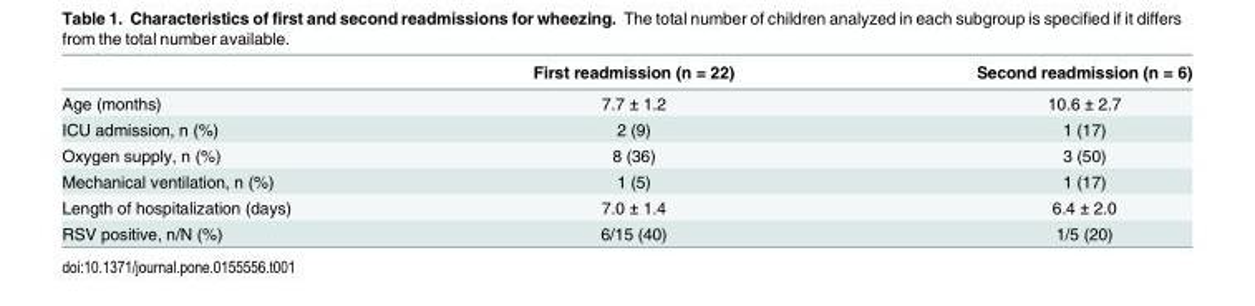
<table><thead><tr><td></td><td>First readmission (n = 22)</td><td>Second readmission (n = 6)</td></tr></thead><tbody><tr><td>Age (months)</td><td>7.7 ± 1.2</td><td>10.6 ± 2.7</td></tr><tr><td>ICU admission, n (%)</td><td>2 (9)</td><td>1 (17)</td></tr><tr><td>Oxygen supply, n (%)</td><td>8 (36)</td><td>3 (50)</td></tr><tr><td>Mechanical ventilation, n (%)</td><td>1 (5)</td><td>1 (17)</td></tr><tr><td>Length of hospitalization (days)</td><td>7.0 ± 1.4</td><td>6.4 ± 2.0</td></tr><tr><td>RSV positive, n/N (%)</td><td>6/15 (40)</td><td>1/5 (20)</td></tr></tbody></table>